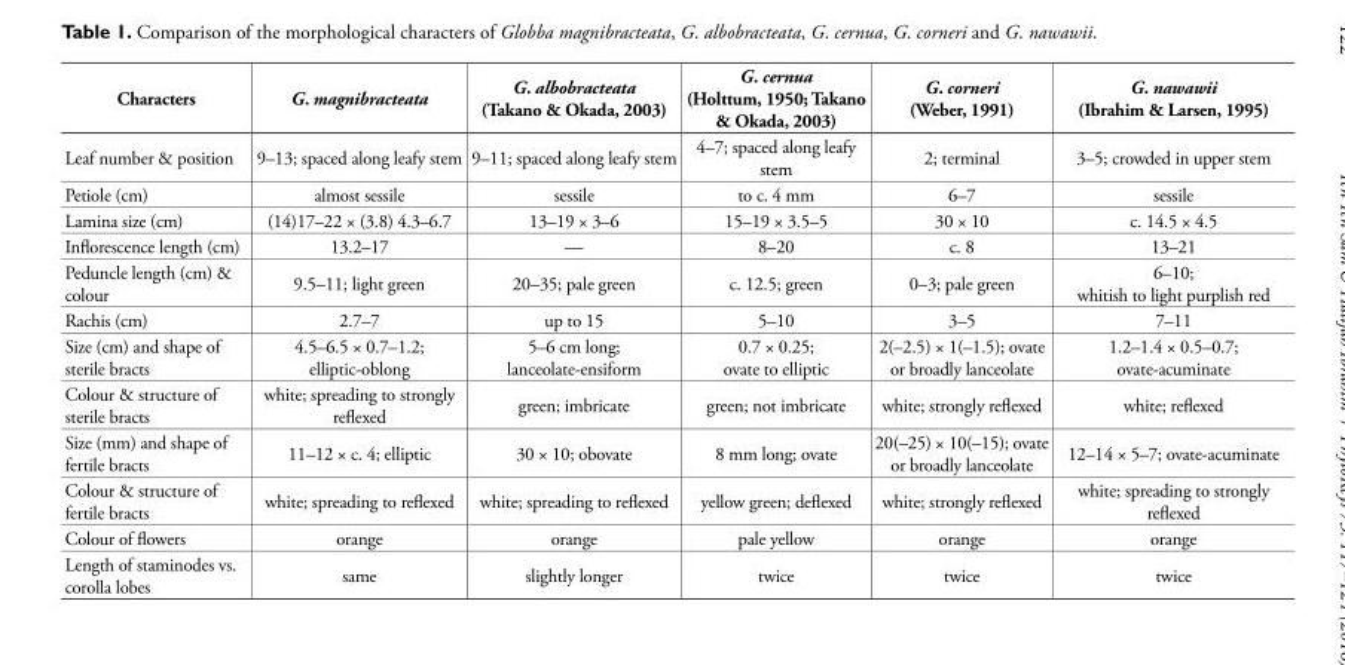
<table><thead><tr><td>Characters</td><td>G. magnibracteata</td><td>G. albobracteata (Takano &amp; Okada, 2003)</td><td>G. cernua (Holttum, 1950; Takano &amp; Okada, 2003)</td><td>G. corneri (Weber, 1991)</td><td>G. nawawii (Ibrahim &amp; Larsen, 1995)</td></tr></thead><tbody><tr><td>Leaf number &amp; position</td><td>9–13; spaced along leafy stem</td><td>9–11; spaced along leafy stem</td><td>4–7; spaced along leafy stem</td><td>2; terminal</td><td>3–5; crowded in upper stem</td></tr><tr><td>Petiole (cm)</td><td>almost sessile</td><td>sessile</td><td>to c. 4 mm</td><td>6–7</td><td>sessile</td></tr><tr><td>Lamina size (cm)</td><td>(14)17–22 × (3.8) 4.3–6.7</td><td>13–19 × 3–6</td><td>15–19 × 3.5–5</td><td>30 × 10</td><td>c. 14.5 × 4.5</td></tr><tr><td>Infl orescence length (cm)</td><td>13.2–17</td><td>—</td><td>8–20</td><td>c. 8</td><td>13–21</td></tr><tr><td>Peduncle length (cm) &amp; colour</td><td>9.5–11; light green</td><td>20–35; pale green</td><td>c. 12.5; green</td><td>0–3; pale green</td><td>6–10; whitish to light purplish red</td></tr><tr><td>Rachis (cm)</td><td>2.7–7</td><td>up to 15</td><td>5–10</td><td>3–5</td><td>7–11</td></tr><tr><td>Size (cm) and shape of sterile bracts</td><td>4.5–6.5 × 0.7–1.2; elliptic-oblong</td><td>5–6 cm long; lanceolate-ensiform</td><td>0.7 × 0.25; ovate to elliptic</td><td>2(–2.5) × 1(–1.5); ovate or broadly lanceolate</td><td>1.2–1.4 × 0.5–0.7; ovate-acuminate</td></tr><tr><td>Colour &amp; structure of sterile bracts</td><td>white; spreading to strongly refl exed</td><td>green; imbricate</td><td>green; not imbricate</td><td>white; strongly refl exed</td><td>white; refl exed</td></tr><tr><td>Size (mm) and shape of fertile bracts</td><td>11–12 × c. 4; elliptic</td><td>30 × 10; obovate</td><td>8 mm long; ovate</td><td>20(–25) × 10(–15); ovate or broadly lanceolate</td><td>12–14 × 5–7; ovate-acuminate</td></tr><tr><td>Colour &amp; structure of fertile bracts</td><td>white; spreading to refl exed</td><td>white; spreading to refl exed</td><td>yellow green; defl exed</td><td>white; strongly refl exed</td><td>white; spreading to strongly refl exed</td></tr><tr><td>Colour of fl owers</td><td>orange</td><td>orange</td><td>pale yellow</td><td>orange</td><td>orange</td></tr><tr><td>Length of staminodes vs. corolla lobes</td><td>same</td><td>slightly longer</td><td>twice</td><td>twice</td><td>twice</td></tr></tbody></table>